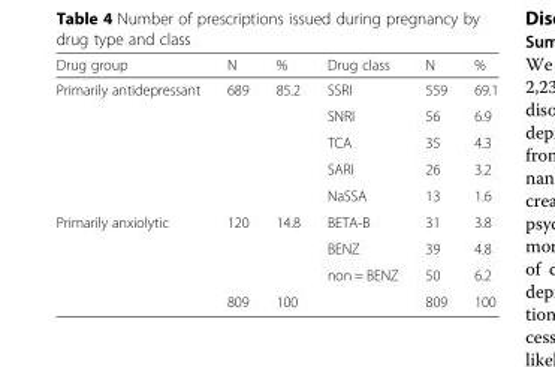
<table><thead><tr><td>Drug group</td><td>N</td><td>%</td><td>Drug class</td><td>N</td><td>%</td></tr></thead><tbody><tr><td rowspan="5">Primarily antidepressant</td><td rowspan="5">689</td><td rowspan="5">85.2</td><td>SSRI</td><td>559</td><td>69.1</td></tr><tr><td>SNRI</td><td>56</td><td>6.9</td></tr><tr><td>TCA</td><td>35</td><td>4.3</td></tr><tr><td>SARI</td><td>26</td><td>3.2</td></tr><tr><td>NaSSA</td><td>13</td><td>1.6</td></tr><tr><td rowspan="4">Primarily anxiolytic</td><td rowspan="3">120</td><td rowspan="3">14.8</td><td>BETA-B</td><td>31</td><td>3.8</td></tr><tr><td>BENZ</td><td>39</td><td>4.8</td></tr><tr><td>non = BENZ</td><td>50</td><td>6.2</td></tr><tr><td>809</td><td>100</td><td></td><td>809</td><td>100</td></tr></tbody></table>